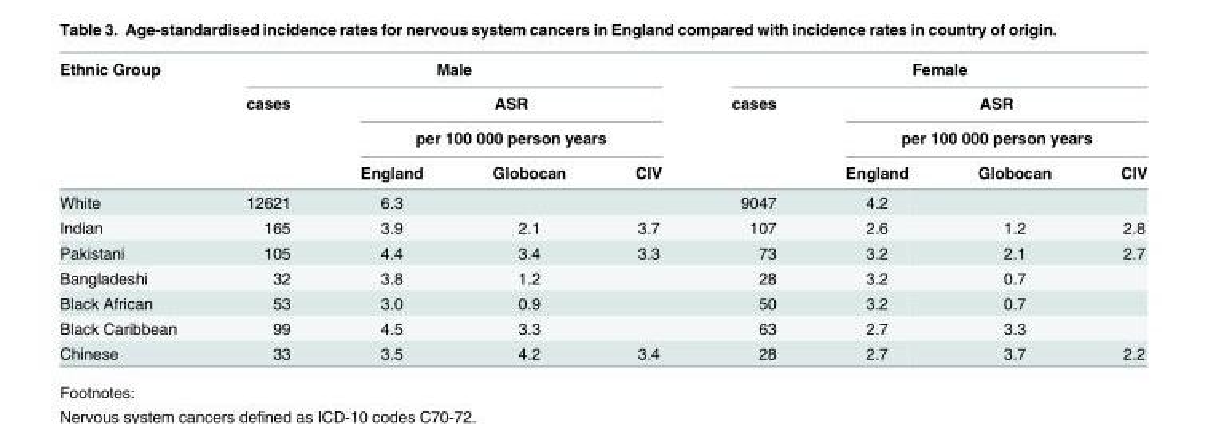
<table><thead><tr><td rowspan="4">Ethnic Group</td><td colspan="4">Male</td><td colspan="4">Female</td></tr><tr><td rowspan="3">cases</td><td rowspan="2" colspan="3">ASR per 100 000 person years</td><td rowspan="3">cases</td><td rowspan="2" colspan="3">ASR per 100 000 person years</td></tr><tr></tr><tr><td>England</td><td>Globocan</td><td>CIV</td><td>England</td><td>Globocan</td><td>CIV</td></tr></thead><tbody><tr><td>White</td><td>12621</td><td>6.3</td><td></td><td></td><td>9047</td><td>4.2</td><td></td><td></td></tr><tr><td>Indian</td><td>165</td><td>3.9</td><td>2.1</td><td>3.7</td><td>107</td><td>2.6</td><td>1.2</td><td>2.8</td></tr><tr><td>Pakistani</td><td>105</td><td>4.4</td><td>3.4</td><td>3.3</td><td>73</td><td>3.2</td><td>2.1</td><td>2.7</td></tr><tr><td>Bangladeshi</td><td>32</td><td>3.8</td><td>1.2</td><td></td><td>28</td><td>3.2</td><td>0.7</td><td></td></tr><tr><td>Black African</td><td>53</td><td>3.0</td><td>0.9</td><td></td><td>50</td><td>3.2</td><td>0.7</td><td></td></tr><tr><td>Black Caribbean</td><td>99</td><td>4.5</td><td>3.3</td><td></td><td>63</td><td>2.7</td><td>3.3</td><td></td></tr><tr><td>Chinese</td><td>33</td><td>3.5</td><td>4.2</td><td>3.4</td><td>28</td><td>2.7</td><td>3.7</td><td>2.2</td></tr></tbody></table>